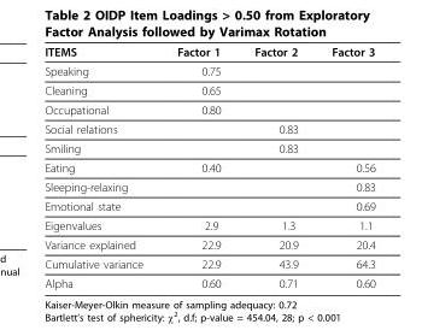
<table><thead><tr><td>ITEMS</td><td>Factor 1</td><td>Factor 2</td><td>Factor 3</td></tr></thead><tbody><tr><td>Speaking</td><td>0.75</td><td></td><td></td></tr><tr><td>Cleaning</td><td>0.65</td><td></td><td></td></tr><tr><td>Occupational</td><td>0.80</td><td></td><td></td></tr><tr><td>Social relations</td><td></td><td>0.83</td><td></td></tr><tr><td>Smiling</td><td></td><td>0.83</td><td></td></tr><tr><td>Eating</td><td>0.40</td><td></td><td>0.56</td></tr><tr><td>Sleeping-relaxing</td><td></td><td></td><td>0.83</td></tr><tr><td>Emotional state</td><td></td><td></td><td>0.69</td></tr><tr><td>Eigenvalues</td><td>2.9</td><td>1.3</td><td>1.1</td></tr><tr><td>Variance explained</td><td>22.9</td><td>20.9</td><td>20.4</td></tr><tr><td>Cumulative variance</td><td>22.9</td><td>43.9</td><td>64.3</td></tr><tr><td>Alpha</td><td>0.60</td><td>0.71</td><td>0.60</td></tr></tbody></table>